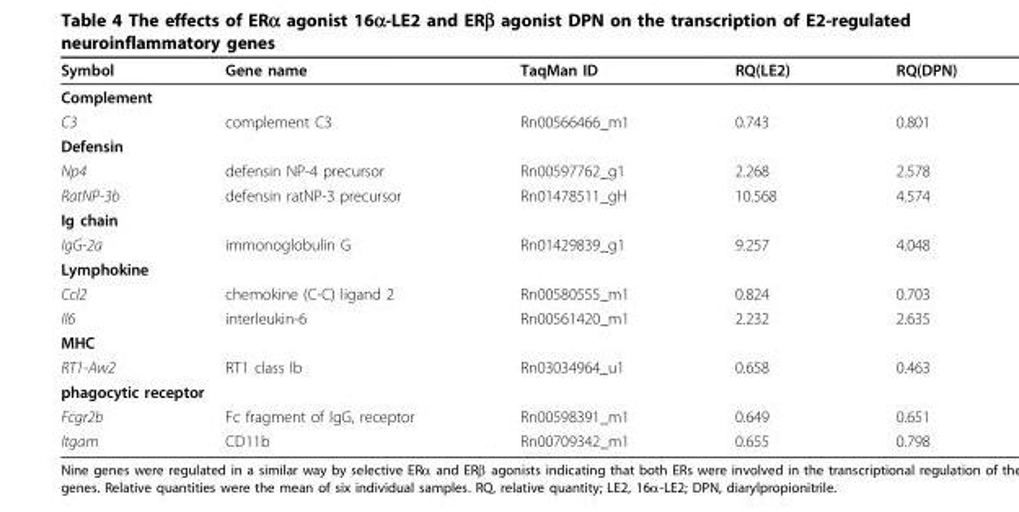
<table><thead><tr><td>Symbol</td><td>Gene name</td><td>TaqMan ID</td><td>RQ(LE2)</td><td>RQ(DPN)</td></tr></thead><tbody><tr><td colspan="5">Complement</td></tr><tr><td>C3</td><td>complement C3</td><td>Rn00566466_m1</td><td>0.743</td><td>0.801</td></tr><tr><td colspan="5">Defensin</td></tr><tr><td>Np4</td><td>defensin NP-4 precursor</td><td>Rn00597762_g1</td><td>2.268</td><td>2.578</td></tr><tr><td>RatNP-3b</td><td>defensin ratNP-3 precursor</td><td>Rn01478511_gH</td><td>10.568</td><td>4.574</td></tr><tr><td colspan="5">Ig chain</td></tr><tr><td>IgG-2a</td><td>immonoglobulin G</td><td>Rn01429839_g1</td><td>9.257</td><td>4.048</td></tr><tr><td colspan="5">Lymphokine</td></tr><tr><td>Ccl2</td><td>chemokine (C-C) ligand 2</td><td>Rn00580555_m1</td><td>0.824</td><td>0.703</td></tr><tr><td>Il6</td><td>interleukin-6</td><td>Rn00561420_m1</td><td>2.232</td><td>2.635</td></tr><tr><td colspan="5">MHC</td></tr><tr><td>RT1-Aw2</td><td>RT1 class Ib</td><td>Rn03034964_u1</td><td>0.658</td><td>0.463</td></tr><tr><td colspan="5">phagocytic receptor</td></tr><tr><td>Fcgr2b</td><td>Fc fragment of IgG, receptor</td><td>Rn00598391_m1</td><td>0.649</td><td>0.651</td></tr><tr><td>Itgam</td><td>CD11b</td><td>Rn00709342_m1</td><td>0.655</td><td>0.798</td></tr></tbody></table>